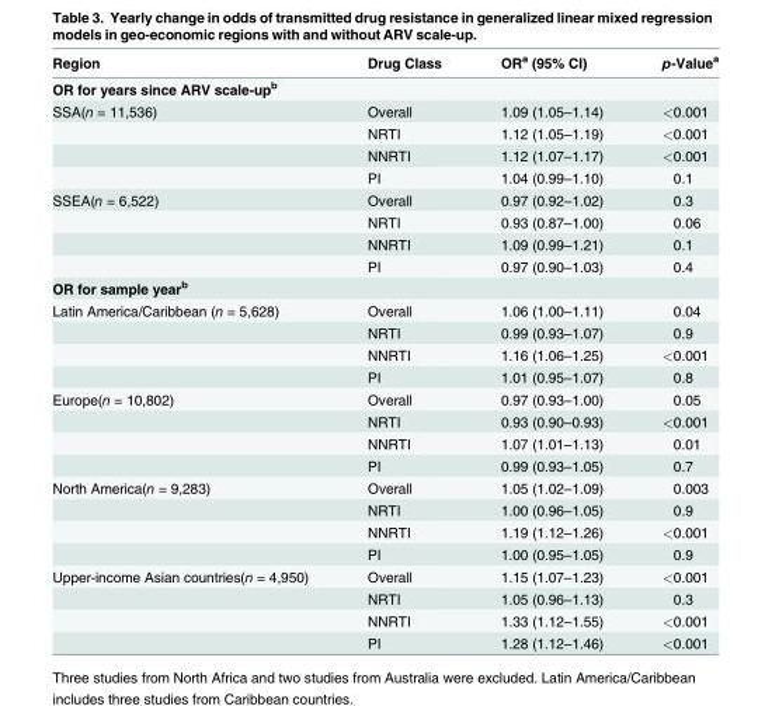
<table><thead><tr><td>Region</td><td>Drug Class</td><td>OR<sup>a</sup> (95% CI)</td><td>p-Value<sup>a</sup></td></tr></thead><tbody><tr><td colspan="4">OR for years since ARV scale-up<sup>b</sup></td></tr><tr><td rowspan="4">SSA(n = 11,536)</td><td>Overall</td><td>1.09 (1.05–1.14)</td><td>&lt;0.001</td></tr><tr><td>NRTI</td><td>1.12 (1.05–1.19)</td><td>&lt;0.001</td></tr><tr><td>NNRTI</td><td>1.12 (1.07–1.17)</td><td>&lt;0.001</td></tr><tr><td>PI</td><td>1.04 (0.99–1.10)</td><td>0.1</td></tr><tr><td rowspan="4">SSEA(n = 6,522)</td><td>Overall</td><td>0.97 (0.92–1.02)</td><td>0.3</td></tr><tr><td>NRTI</td><td>0.93 (0.87–1.00)</td><td>0.06</td></tr><tr><td>NNRTI</td><td>1.09 (0.99–1.21)</td><td>0.1</td></tr><tr><td>PI</td><td>0.97 (0.90–1.03)</td><td>0.4</td></tr><tr><td colspan="4">OR for sample year<sup>b</sup></td></tr><tr><td rowspan="4">Latin America/Caribbean (n = 5,628)</td><td>Overall</td><td>1.06 (1.00–1.11)</td><td>0.04</td></tr><tr><td>NRTI</td><td>0.99 (0.93–1.07)</td><td>0.9</td></tr><tr><td>NNRTI</td><td>1.16 (1.06–1.25)</td><td>&lt;0.001</td></tr><tr><td>PI</td><td>1.01 (0.95–1.07)</td><td>0.8</td></tr><tr><td rowspan="4">Europe(n = 10,802)</td><td>Overall</td><td>0.97 (0.93–1.00)</td><td>0.05</td></tr><tr><td>NRTI</td><td>0.93 (0.90–0.93)</td><td>&lt;0.001</td></tr><tr><td>NNRTI</td><td>1.07 (1.01–1.13)</td><td>0.01</td></tr><tr><td>PI</td><td>0.99 (0.93–1.05)</td><td>0.7</td></tr><tr><td rowspan="4">North America(n = 9,283)</td><td>Overall</td><td>1.05 (1.02–1.09)</td><td>0.003</td></tr><tr><td>NRTI</td><td>1.00 (0.96–1.05)</td><td>0.9</td></tr><tr><td>NNRTI</td><td>1.19 (1.12–1.26)</td><td>&lt;0.001</td></tr><tr><td>PI</td><td>1.00 (0.95–1.05)</td><td>0.9</td></tr><tr><td rowspan="4">Upper-income Asian countries(n = 4,950)</td><td>Overall</td><td>1.15 (1.07–1.23)</td><td>&lt;0.001</td></tr><tr><td>NRTI</td><td>1.05 (0.96–1.13)</td><td>0.3</td></tr><tr><td>NNRTI</td><td>1.33 (1.12–1.55)</td><td>&lt;0.001</td></tr><tr><td>PI</td><td>1.28 (1.12–1.46)</td><td>&lt;0.001</td></tr></tbody></table>